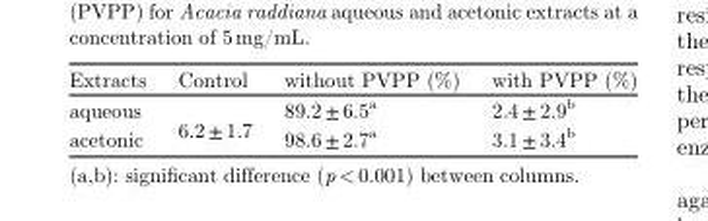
<table><thead><tr><td>Extracts</td><td>Control</td><td>without PVPP (%)</td><td>with PVPP (%)</td></tr></thead><tbody><tr><td>aqueous</td><td rowspan="2">6.2 ± 1.7</td><td>89.2 ± 6.5<sup>a</sup></td><td>2.4 ± 2.9<sup>b</sup></td></tr><tr><td>acetonic</td><td>98.6 ± 2.7<sup>a</sup></td><td>3.1 ± 3.4<sup>b</sup></td></tr></tbody></table>